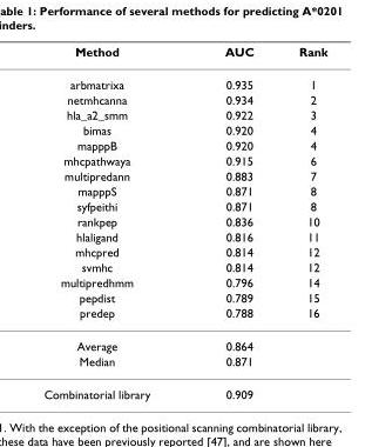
<table><thead><tr><td>Method</td><td>AUC</td><td>Rank</td></tr></thead><tbody><tr><td>arbmatrixa</td><td>0.935</td><td>1</td></tr><tr><td>netmhcanna</td><td>0.934</td><td>2</td></tr><tr><td>hla_a2_smm</td><td>0.922</td><td>3</td></tr><tr><td>bimas</td><td>0.920</td><td>4</td></tr><tr><td>mapppB</td><td>0.920</td><td>4</td></tr><tr><td>mhcpathwaya</td><td>0.915</td><td>6</td></tr><tr><td>multipredann</td><td>0.883</td><td>7</td></tr><tr><td>mapppS</td><td>0.871</td><td>8</td></tr><tr><td>syfpeithi</td><td>0.871</td><td>8</td></tr><tr><td>rankpep</td><td>0.836</td><td>10</td></tr><tr><td>hlaligand</td><td>0.816</td><td>11</td></tr><tr><td>mhcpred</td><td>0.814</td><td>12</td></tr><tr><td>svmhc</td><td>0.814</td><td>12</td></tr><tr><td>multipredhmm</td><td>0.796</td><td>14</td></tr><tr><td>pepdist</td><td>0.789</td><td>15</td></tr><tr><td>predep</td><td>0.788</td><td>16</td></tr><tr><td>Average</td><td>0.864</td><td></td></tr><tr><td>Median</td><td>0.871</td><td></td></tr><tr><td>Combinatorial library</td><td>0.909</td><td></td></tr></tbody></table>